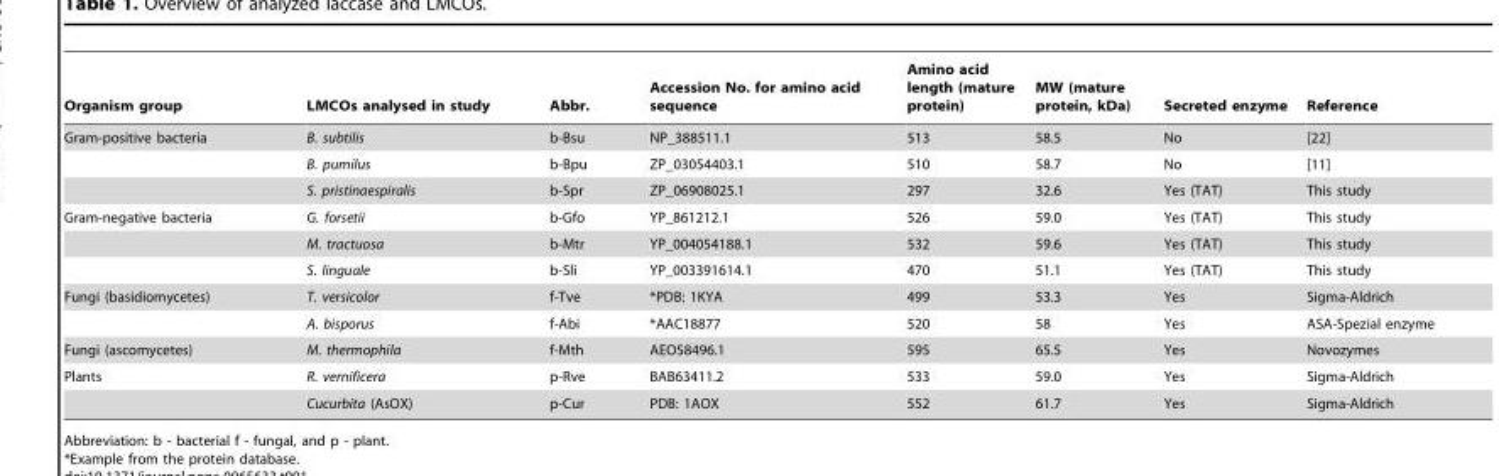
<table><thead><tr><td>Organism group</td><td>LMCOs analysed in study</td><td>Abbr.</td><td>Accession No. for amino acid sequence</td><td>Amino acid length (mature protein)</td><td>MW (mature protein, kDa)</td><td>Secreted enzyme</td><td>Reference</td></tr></thead><tbody><tr><td rowspan="3">Gram-positive bacteria</td><td>B. subtilis</td><td>b-Bsu</td><td>NP_388511.1</td><td>513</td><td>58.5</td><td>No</td><td>[22]</td></tr><tr><td>B. pumilus</td><td>b-Bpu</td><td>ZP_03054403.1</td><td>510</td><td>58.7</td><td>No</td><td>[11]</td></tr><tr><td>S. pristinaespiralis</td><td>b-Spr</td><td>ZP_06908025.1</td><td>297</td><td>32.6</td><td>Yes (TAT)</td><td>This study</td></tr><tr><td rowspan="3">Gram-negative bacteria</td><td>G. forsetii</td><td>b-Gfo</td><td>YP_861212.1</td><td>526</td><td>59.0</td><td>Yes (TAT)</td><td>This study</td></tr><tr><td>M. tractuosa</td><td>b-Mtr</td><td>YP_004054188.1</td><td>532</td><td>59.6</td><td>Yes (TAT)</td><td>This study</td></tr><tr><td>S. linguale</td><td>b-Sli</td><td>YP_003391614.1</td><td>470</td><td>51.1</td><td>Yes (TAT)</td><td>This study</td></tr><tr><td rowspan="2">Fungi (basidiomycetes)</td><td>T. versicolor</td><td>f-Tve</td><td>*PDB: 1KYA</td><td>499</td><td>53.3</td><td>Yes</td><td>Sigma-Aldrich</td></tr><tr><td>A. bisporus</td><td>f-Abi</td><td>*AAC18877</td><td>520</td><td>58</td><td>Yes</td><td>ASA-Spezial enzyme</td></tr><tr><td>Fungi (ascomycetes)</td><td>M. thermophila</td><td>f-Mth</td><td>AEO58496.1</td><td>595</td><td>65.5</td><td>Yes</td><td>Novozymes</td></tr><tr><td rowspan="2">Plants</td><td>R. vernificera</td><td>p-Rve</td><td>BAB63411.2</td><td>533</td><td>59.0</td><td>Yes</td><td>Sigma-Aldrich</td></tr><tr><td>Cucurbita (AsOX)</td><td>p-Cur</td><td>PDB: 1AOX</td><td>552</td><td>61.7</td><td>Yes</td><td>Sigma-Aldrich</td></tr></tbody></table>